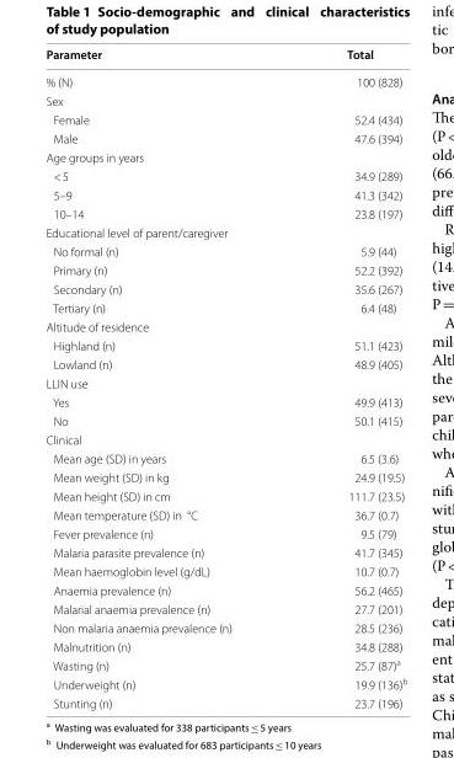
<table><thead><tr><td>Parameter</td><td>Total</td></tr></thead><tbody><tr><td>% (N)</td><td>100 (828)</td></tr><tr><td colspan="2">Sex</td></tr><tr><td>Female</td><td>52.4 (434)</td></tr><tr><td>Male</td><td>47.6 (394)</td></tr><tr><td colspan="2">Age groups in years</td></tr><tr><td>&lt; 5</td><td>34.9 (289)</td></tr><tr><td>5–9</td><td>41.3 (342)</td></tr><tr><td>10–14</td><td>23.8 (197)</td></tr><tr><td colspan="2">Educational level of parent/caregiver</td></tr><tr><td>No formal (n)</td><td>5.9 (44)</td></tr><tr><td>Primary (n)</td><td>52.2 (392)</td></tr><tr><td>Secondary (n)</td><td>35.6 (267)</td></tr><tr><td>Tertiary (n)</td><td>6.4 (48)</td></tr><tr><td colspan="2">Altitude of residence</td></tr><tr><td>Highland (n)</td><td>51.1 (423)</td></tr><tr><td>Lowland (n)</td><td>48.9 (405)</td></tr><tr><td colspan="2">LLIN use</td></tr><tr><td>Yes</td><td>49.9 (413)</td></tr><tr><td>No</td><td>50.1 (415)</td></tr><tr><td colspan="2">Clinical</td></tr><tr><td>Mean age (SD) in years</td><td>6.5 (3.6)</td></tr><tr><td>Mean weight (SD) in kg</td><td>24.9 (19.5)</td></tr><tr><td>Mean height (SD) in cm</td><td>111.7 (23.5)</td></tr><tr><td>Mean temperature (SD) in °C</td><td>36.7 (0.7)</td></tr><tr><td>Fever prevalence (n)</td><td>9.5 (79)</td></tr><tr><td>Malaria parasite prevalence (n)</td><td>41.7 (345)</td></tr><tr><td>Mean haemoglobin level (g/dL)</td><td>10.7 (0.7)</td></tr><tr><td>Anaemia prevalence (n)</td><td>56.2 (465)</td></tr><tr><td>Malarial anaemia prevalence (n)</td><td>27.7 (201)</td></tr><tr><td>Non malaria anaemia prevalence (n)</td><td>28.5 (236)</td></tr><tr><td>Malnutrition (n)</td><td>34.8 (288)</td></tr><tr><td>Wasting (n)</td><td>25.7 (87)<sup>a</sup></td></tr><tr><td>Underweight (n)</td><td>19.9 (136)<sup>b</sup></td></tr><tr><td>Stunting (n)</td><td>23.7 (196)</td></tr></tbody></table>